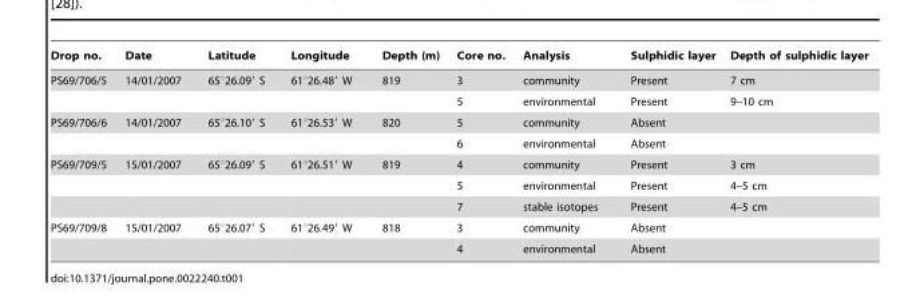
<table><thead><tr><td>Drop no.</td><td>Date</td><td>Latitude</td><td>Longitude</td><td>Depth (m)</td><td>Core no.</td><td>Analysis</td><td>Sulphidic layer</td><td>Depth of sulphidic layer</td></tr></thead><tbody><tr><td rowspan="2">PS69/706/5</td><td>14/01/2007</td><td>65°26.09′ S</td><td>61°26.48′ W</td><td>819</td><td>3</td><td>community</td><td>Present</td><td>7 cm</td></tr><tr><td></td><td></td><td></td><td></td><td>5</td><td>environmental</td><td>Present</td><td>9–10 cm</td></tr><tr><td rowspan="2">PS69/706/6</td><td>14/01/2007</td><td>65°26.10′ S</td><td>61°26.53′ W</td><td>820</td><td>5</td><td>community</td><td>Absent</td><td></td></tr><tr><td></td><td></td><td></td><td></td><td>6</td><td>environmental</td><td>Absent</td><td></td></tr><tr><td rowspan="3">PS69/709/5</td><td>15/01/2007</td><td>65°26.09′ S</td><td>61°26.51′ W</td><td>819</td><td>4</td><td>community</td><td>Present</td><td>3 cm</td></tr><tr><td></td><td></td><td></td><td></td><td>5</td><td>environmental</td><td>Present</td><td>4–5 cm</td></tr><tr><td></td><td></td><td></td><td></td><td>7</td><td>stable isotopes</td><td>Present</td><td>4–5 cm</td></tr><tr><td rowspan="2">PS69/709/8</td><td>15/01/2007</td><td>65°26.07′ S</td><td>61°26.49′ W</td><td>818</td><td>3</td><td>community</td><td>Absent</td><td></td></tr><tr><td></td><td></td><td></td><td></td><td>4</td><td>environmental</td><td>Absent</td><td></td></tr></tbody></table>